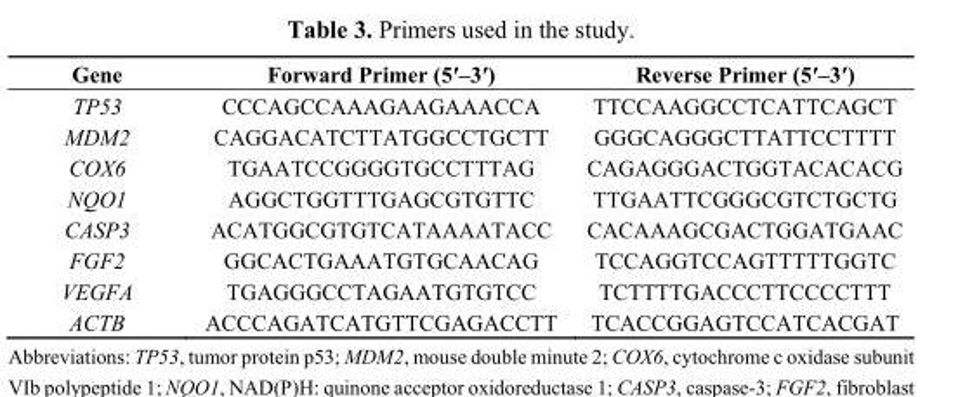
<table><thead><tr><td>Gene</td><td>Forward Primer (5′–3′)</td><td>Reverse Primer (5′–3′)</td></tr></thead><tbody><tr><td>TP53</td><td>CCCAGCCAAAGAAGAAACCA</td><td>TTCCAAGGCCTCATTCAGCT</td></tr><tr><td>MDM2</td><td>CAGGACATCTTATGGCCTGCTT</td><td>GGGCAGGGCTTATTCCTTTT</td></tr><tr><td>COX6</td><td>TGAATCCGGGGTGCCTTTAG</td><td>CAGAGGGACTGGTACACACG</td></tr><tr><td>NQO1</td><td>AGGCTGGTTTGAGCGTGTTC</td><td>TTGAATTCGGGCGTCTGCTG</td></tr><tr><td>CASP3</td><td>ACATGGCGTGTCATAAAATACC</td><td>CACAAAGCGACTGGATGAAC</td></tr><tr><td>FGF2</td><td>GGCACTGAAATGTGCAACAG</td><td>TCCAGGTCCAGTTTTTGGTC</td></tr><tr><td>VEGFA</td><td>TGAGGGCCTAGAATGTGTCC</td><td>TCTTTTGACCCTTCCCCTTT</td></tr><tr><td>ACTB</td><td>ACCCAGATCATGTTCGAGACCTT</td><td>TCACCGGAGTCCATCACGAT</td></tr></tbody></table>